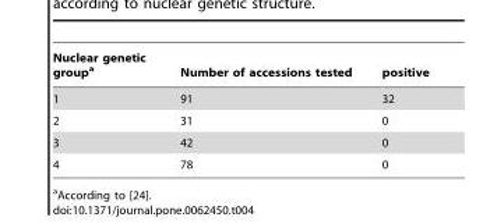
<table><thead><tr><td>Nuclear genetic group<sup>a</sup></td><td>Number of accessions tested</td><td>positive</td></tr></thead><tbody><tr><td>1</td><td>91</td><td>32</td></tr><tr><td>2</td><td>31</td><td>0</td></tr><tr><td>3</td><td>42</td><td>0</td></tr><tr><td>4</td><td>78</td><td>0</td></tr></tbody></table>